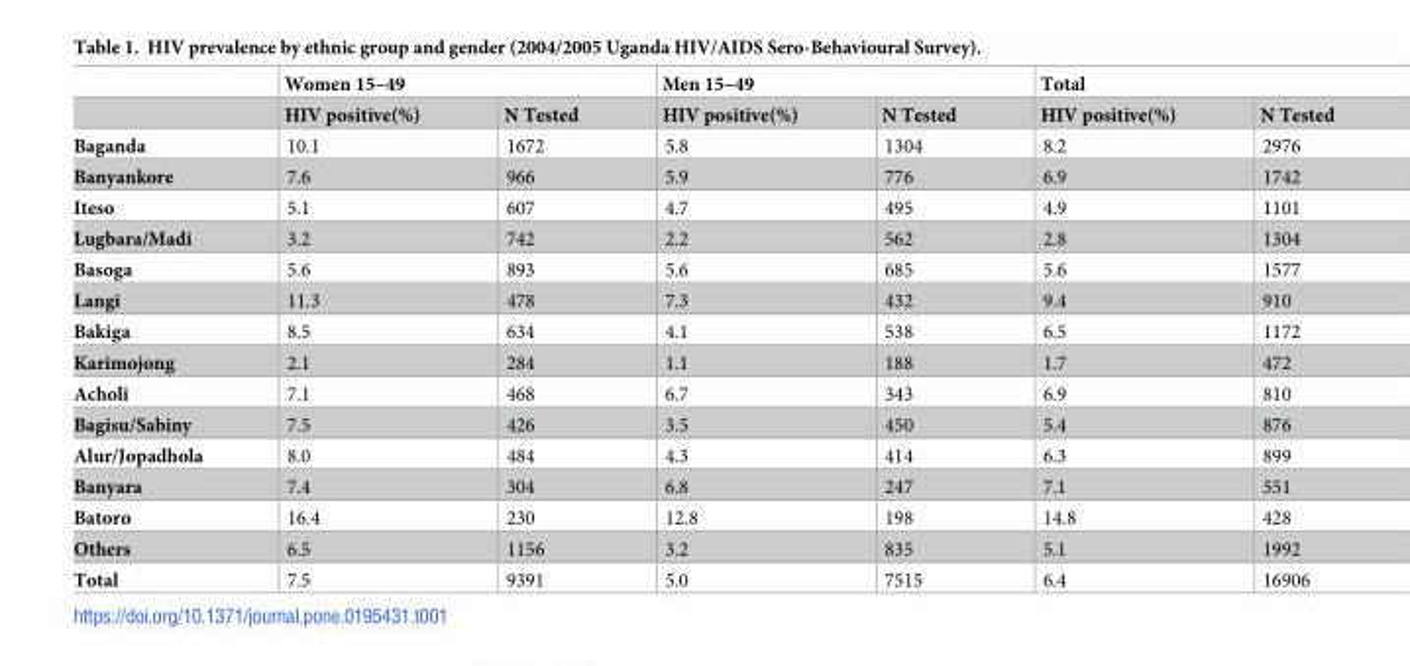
<table><thead><tr><td rowspan="2"></td><td colspan="2">Women 15–49</td><td colspan="2">Men 15–49</td><td colspan="2">Total</td></tr><tr><td>HIV positive(%)</td><td>N Tested</td><td>HIV positive(%)</td><td>N Tested</td><td>HIV positive(%)</td><td>N Tested</td></tr></thead><tbody><tr><td>Baganda</td><td>10.1</td><td>1672</td><td>5.8</td><td>1304</td><td>8.2</td><td>2976</td></tr><tr><td>Banyankore</td><td>7.6</td><td>966</td><td>5.9</td><td>776</td><td>6.9</td><td>1742</td></tr><tr><td>Iteso</td><td>5.1</td><td>607</td><td>4.7</td><td>495</td><td>4.9</td><td>1101</td></tr><tr><td>Lugbara/Madi</td><td>3.2</td><td>742</td><td>2.2</td><td>562</td><td>2.8</td><td>1304</td></tr><tr><td>Basoga</td><td>5.6</td><td>893</td><td>5.6</td><td>685</td><td>5.6</td><td>1577</td></tr><tr><td>Langi</td><td>11.3</td><td>478</td><td>7.3</td><td>432</td><td>9.4</td><td>910</td></tr><tr><td>Bakiga</td><td>8.5</td><td>634</td><td>4.1</td><td>538</td><td>6.5</td><td>1172</td></tr><tr><td>Karimojong</td><td>2.1</td><td>284</td><td>1.1</td><td>188</td><td>1.7</td><td>472</td></tr><tr><td>Acholi</td><td>7.1</td><td>468</td><td>6.7</td><td>343</td><td>6.9</td><td>810</td></tr><tr><td>Bagisu/Sabiny</td><td>7.5</td><td>426</td><td>3.5</td><td>450</td><td>5.4</td><td>876</td></tr><tr><td>Alur/Jopadhola</td><td>8.0</td><td>484</td><td>4.3</td><td>414</td><td>6.3</td><td>899</td></tr><tr><td>Banyara</td><td>7.4</td><td>304</td><td>6.8</td><td>247</td><td>7.1</td><td>551</td></tr><tr><td>Batoro</td><td>16.4</td><td>230</td><td>12.8</td><td>198</td><td>14.8</td><td>428</td></tr><tr><td>Others</td><td>6.5</td><td>1156</td><td>3.2</td><td>835</td><td>5.1</td><td>1992</td></tr><tr><td>Total</td><td>7.5</td><td>9391</td><td>5.0</td><td>7515</td><td>6.4</td><td>16906</td></tr></tbody></table>